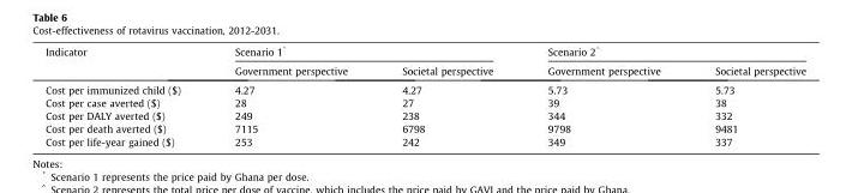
<table><thead><tr><td rowspan="2">Indicator</td><td colspan="2">Scenario 1*</td><td colspan="2">Scenario 2^</td></tr><tr><td>Government perspective</td><td>Societal perspective</td><td>Government perspective</td><td>Societal perspective</td></tr></thead><tbody><tr><td>Cost per immunized child ($)</td><td>4.27</td><td>4.27</td><td>5.73</td><td>5.73</td></tr><tr><td>Cost per case averted ($)</td><td>28</td><td>27</td><td>39</td><td>38</td></tr><tr><td>Cost per DALY averted ($)</td><td>249</td><td>238</td><td>344</td><td>332</td></tr><tr><td>Cost per death averted ($)</td><td>7115</td><td>6798</td><td>9798</td><td>9481</td></tr><tr><td>Cost per life-year gained ($)</td><td>253</td><td>242</td><td>349</td><td>337</td></tr></tbody></table>